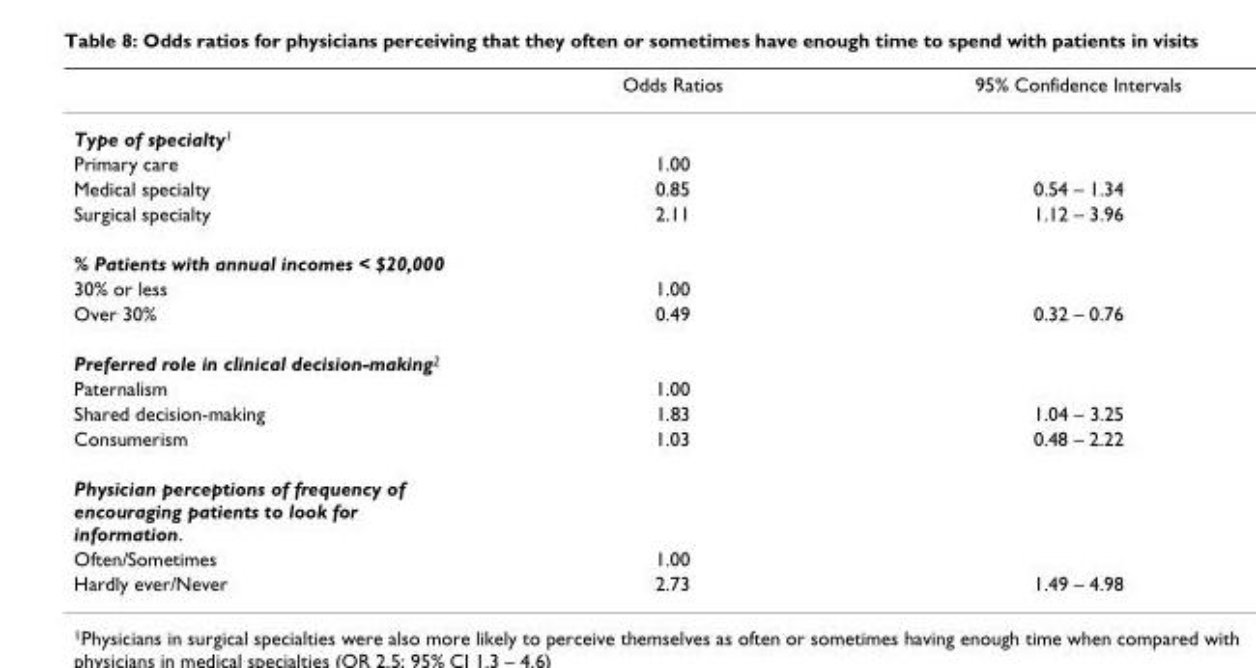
<table><thead><tr><td></td><td>Odds Ratios</td><td>95% Confidence Intervals</td></tr></thead><tbody><tr><td colspan="3">Type of specialty<sup>1</sup></td></tr><tr><td>Primary care</td><td>1.00</td><td></td></tr><tr><td>Medical specialty</td><td>0.85</td><td>0.54 – 1.34</td></tr><tr><td>Surgical specialty</td><td>2.11</td><td>1.12 – 3.96</td></tr><tr><td colspan="3">% Patients with annual incomes &lt; $20,000</td></tr><tr><td>30% or less</td><td>1.00</td><td></td></tr><tr><td>Over 30%</td><td>0.49</td><td>0.32 – 0.76</td></tr><tr><td colspan="3">Preferred role in clinical decision-making<sup>2</sup></td></tr><tr><td>Paternalism</td><td>1.00</td><td></td></tr><tr><td>Shared decision-making</td><td>1.83</td><td>1.04 – 3.25</td></tr><tr><td>Consumerism</td><td>1.03</td><td>0.48 – 2.22</td></tr><tr><td colspan="3">Physician perceptions of frequency of encouraging patients to look for information.</td></tr><tr><td>Often/Sometimes</td><td>1.00</td><td></td></tr><tr><td>Hardly ever/Never</td><td>2.73</td><td>1.49 – 4.98</td></tr></tbody></table>